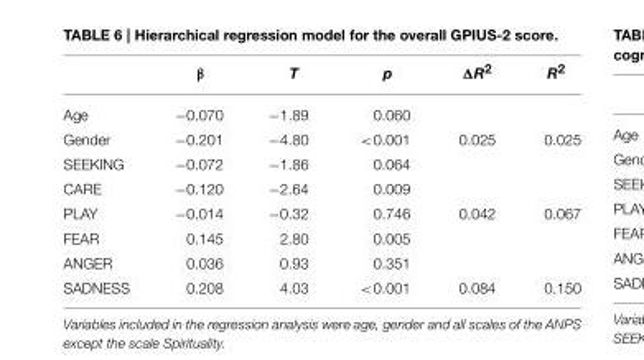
<table><thead><tr><td></td><td>β</td><td>T</td><td>p</td><td>ΔR<sup>2</sup></td><td>R<sup>2</sup></td></tr></thead><tbody><tr><td>Age</td><td>−0.070</td><td>−1.89</td><td>0.060</td><td></td><td></td></tr><tr><td>Gender</td><td>−0.201</td><td>−4.80</td><td>&lt;0.001</td><td>0.025</td><td>0.025</td></tr><tr><td>SEEKING</td><td>−0.072</td><td>−1.86</td><td>0.064</td><td></td><td></td></tr><tr><td>CARE</td><td>−0.120</td><td>−2.64</td><td>0.009</td><td></td><td></td></tr><tr><td>PLAY</td><td>−0.014</td><td>−0.32</td><td>0.746</td><td>0.042</td><td>0.067</td></tr><tr><td>FEAR</td><td>0.145</td><td>2.80</td><td>0.005</td><td></td><td></td></tr><tr><td>ANGER</td><td>0.036</td><td>0.93</td><td>0.351</td><td></td><td></td></tr><tr><td>SADNESS</td><td>0.208</td><td>4.03</td><td>&lt;0.001</td><td>0.084</td><td>0.150</td></tr></tbody></table>